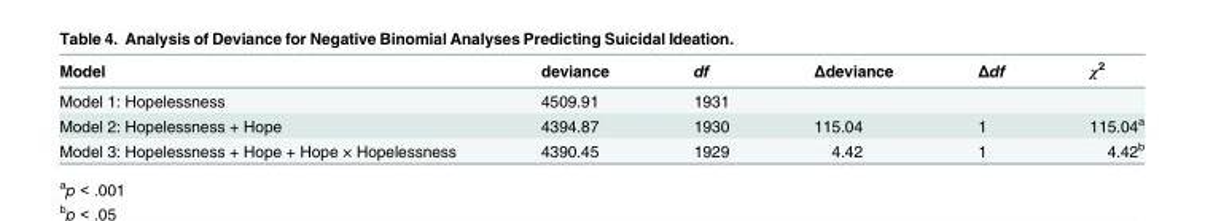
<table><thead><tr><td>Model</td><td>deviance</td><td>df</td><td>Δdeviance</td><td>Δdf</td><td>χ<sup>2</sup></td></tr></thead><tbody><tr><td>Model 1: Hopelessness</td><td>4509.91</td><td>1931</td><td></td><td></td><td></td></tr><tr><td>Model 2: Hopelessness + Hope</td><td>4394.87</td><td>1930</td><td>115.04</td><td>1</td><td>115.04<sup>a</sup></td></tr><tr><td>Model 3: Hopelessness + Hope + Hope × Hopelessness</td><td>4390.45</td><td>1929</td><td>4.42</td><td>1</td><td>4.42<sup>b</sup></td></tr></tbody></table>